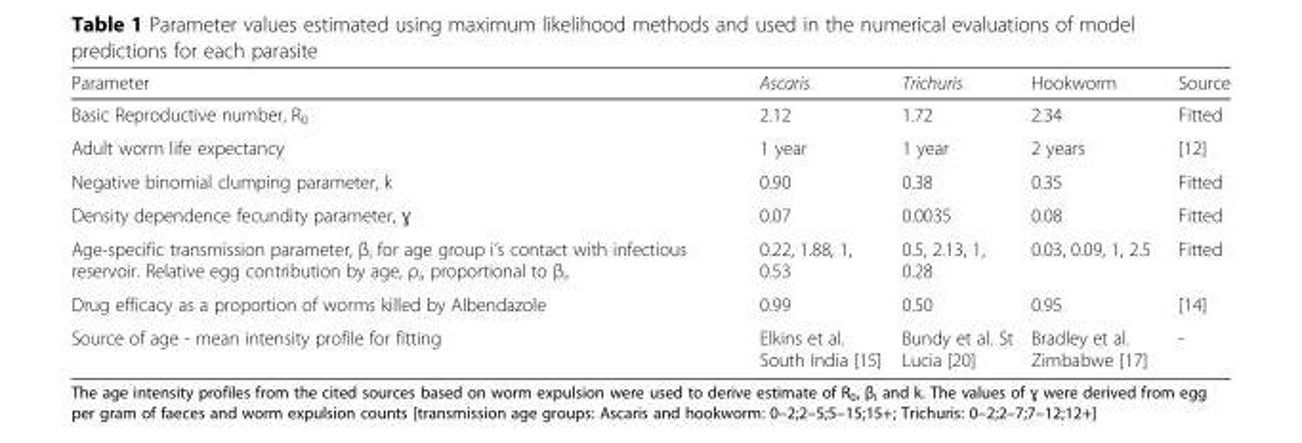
<table><thead><tr><td>Parameter</td><td>Ascaris</td><td>Trichuris</td><td>Hookworm</td><td>Source</td></tr></thead><tbody><tr><td>Basic Reproductive number, R<sub>0</sub></td><td>2.12</td><td>1.72</td><td>2.34</td><td>Fitted</td></tr><tr><td>Adult worm life expectancy</td><td>1 year</td><td>1 year</td><td>2 years</td><td>[12]</td></tr><tr><td>Negative binomial clumping parameter, k</td><td>0.90</td><td>0.38</td><td>0.35</td><td>Fitted</td></tr><tr><td>Density dependence fecundity parameter, ɣ</td><td>0.07</td><td>0.0035</td><td>0.08</td><td>Fitted</td></tr><tr><td>Age-specific transmission parameter, β<sub>i</sub> for age group i’s contact with infectious reservoir. Relative egg contribution by age, ρ<sub>i</sub>, proportional to β<sub>i</sub>.</td><td>0.22, 1.88, 1, 0.53</td><td>0.5, 2.13, 1, 0.28</td><td>0.03, 0.09, 1, 2.5</td><td>Fitted</td></tr><tr><td>Drug efficacy as a proportion of worms killed by Albendazole</td><td>0.99</td><td>0.50</td><td>0.95</td><td>[14]</td></tr><tr><td>Source of age - mean intensity profile for fitting</td><td>Elkins et al. South India [15]</td><td>Bundy et al. St Lucia [20]</td><td>Bradley et al. Zimbabwe [17]</td><td>-</td></tr></tbody></table>